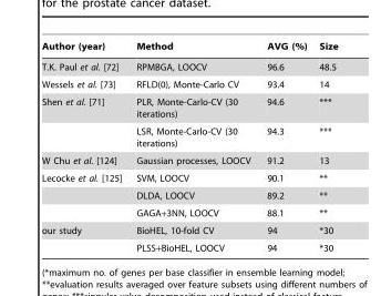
<table><thead><tr><td>Author (year)</td><td>Method</td><td>AVG (%)</td><td>Size</td></tr></thead><tbody><tr><td>T.K. Paul et al. [72]</td><td>RPMBGA, LOOCV</td><td>96.6</td><td>48.5</td></tr><tr><td>Wessels et al. [73]</td><td>RFLD(0), Monte-Carlo CV</td><td>93.4</td><td>14</td></tr><tr><td rowspan="2">Shen et al. [71]</td><td>PLR, Monte-Carlo-CV (30 iterations)</td><td>94.6</td><td>***</td></tr><tr><td>LSR, Monte-Carlo-CV (30 iterations)</td><td>94.3</td><td>***</td></tr><tr><td>W Chu et al. [124]</td><td>Gaussian processes, LOOCV</td><td>91.2</td><td>13</td></tr><tr><td rowspan="3">Lecocke et al. [125]</td><td>SVM, LOOCV</td><td>90.1</td><td>**</td></tr><tr><td>DLDA, LOOCV</td><td>89.2</td><td>**</td></tr><tr><td>GAGA+3NN, LOOCV</td><td>88.1</td><td>**</td></tr><tr><td rowspan="2">our study</td><td>BioHEL, 10-fold CV</td><td>94</td><td>*30</td></tr><tr><td>PLSS+BioHEL, LOOCV</td><td>94</td><td>*30</td></tr></tbody></table>